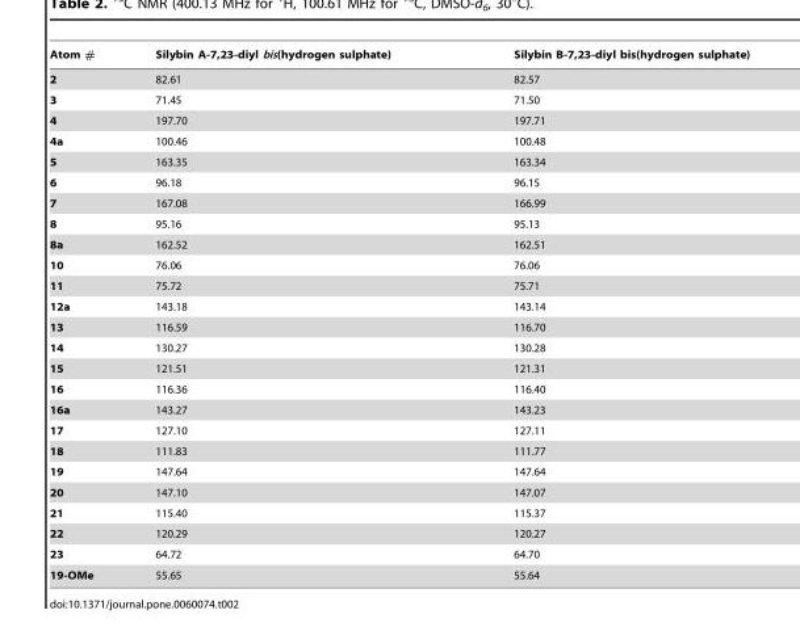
<table><thead><tr><td>Atom #</td><td>Silybin A-7,23-diyl bis(hydrogen sulphate)</td><td>Silybin B-7,23-diyl bis(hydrogen sulphate)</td></tr></thead><tbody><tr><td>2</td><td>82.61</td><td>82.57</td></tr><tr><td>3</td><td>71.45</td><td>71.50</td></tr><tr><td>4</td><td>197.70</td><td>197.71</td></tr><tr><td>4a</td><td>100.46</td><td>100.48</td></tr><tr><td>5</td><td>163.35</td><td>163.34</td></tr><tr><td>6</td><td>96.18</td><td>96.15</td></tr><tr><td>7</td><td>167.08</td><td>166.99</td></tr><tr><td>8</td><td>95.16</td><td>95.13</td></tr><tr><td>8a</td><td>162.52</td><td>162.51</td></tr><tr><td>10</td><td>76.06</td><td>76.06</td></tr><tr><td>11</td><td>75.72</td><td>75.71</td></tr><tr><td>12a</td><td>143.18</td><td>143.14</td></tr><tr><td>13</td><td>116.59</td><td>116.70</td></tr><tr><td>14</td><td>130.27</td><td>130.28</td></tr><tr><td>15</td><td>121.51</td><td>121.31</td></tr><tr><td>16</td><td>116.36</td><td>116.40</td></tr><tr><td>16a</td><td>143.27</td><td>143.23</td></tr><tr><td>17</td><td>127.10</td><td>127.11</td></tr><tr><td>18</td><td>111.83</td><td>111.77</td></tr><tr><td>19</td><td>147.64</td><td>147.64</td></tr><tr><td>20</td><td>147.10</td><td>147.07</td></tr><tr><td>21</td><td>115.40</td><td>115.37</td></tr><tr><td>22</td><td>120.29</td><td>120.27</td></tr><tr><td>23</td><td>64.72</td><td>64.70</td></tr><tr><td>19-OMe</td><td>55.65</td><td>55.64</td></tr></tbody></table>